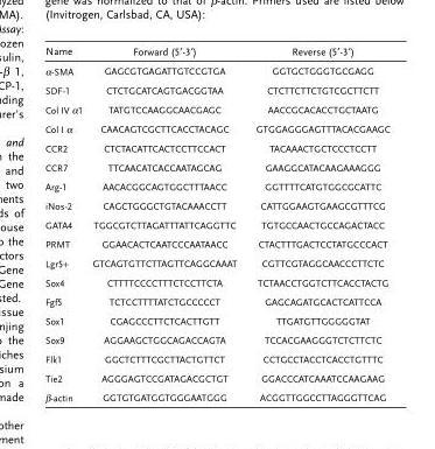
<table><thead><tr><td>Name</td><td>Forward (5′-3′)</td><td>Reverse (5′-3′)</td></tr></thead><tbody><tr><td>α-SMA</td><td>GAGCGTGAGATTGTCCGTGA</td><td>GGTGCTGGGTGCGAGG</td></tr><tr><td>SDF-1</td><td>CTCTGCATCAGTGACGGTAA</td><td>CTCTTCTTCTGTCGCTTCTT</td></tr><tr><td>Col IV α1</td><td>TATGTCCAAGGCAACGAGC</td><td>AACCGCACACCTGCTAATG</td></tr><tr><td>Col I α</td><td>CAACAGTCGCTTCACCTACAGC</td><td>GTGGAGGGAGTTTACACGAAGC</td></tr><tr><td>CCR2</td><td>CTCTACATTCACTCCTTCCACT</td><td>TACAAACTGCTCCCTCCTT</td></tr><tr><td>CCR7</td><td>TTCAACATCACCAATAGCAG</td><td>GAAGGCATACAAGAAAGGG</td></tr><tr><td>Arg-1</td><td>AACACGGCAGTGGCTTTAACC</td><td>GGTTTTCATGTGGCGCATTC</td></tr><tr><td>iNos-2</td><td>CAGCTGGGCTGTACAAACCTT</td><td>CATTGGAAGTGAAGCGTTTCG</td></tr><tr><td>GATA4</td><td>TGGCGTCTTAGATTTATTCAGGTTC</td><td>TGTGCCAACTGCCAGACTACC</td></tr><tr><td>PRMT</td><td>GGAACACTCAATCCCAATAACC</td><td>CTACTTTGACTCCTATGCCCACT</td></tr><tr><td>Lgr5+</td><td>GTCAGTGTTCTTAGTTCAGGCAAAT</td><td>CGTTCGTAGGCAACCCTTCTC</td></tr><tr><td>Sox4</td><td>CTTTTCCCCTTTCTCCTTCTA</td><td>TCTAACCTGGTCTTCACCTACTG</td></tr><tr><td>Fgf5</td><td>TCTCCTTTTATCTGCCCCCT</td><td>GAGCAGATGCACTCATTCCA</td></tr><tr><td>Sox1</td><td>CGAGCCCTTCTCACTTGTT</td><td>TTGATGTTGGGGGTAT</td></tr><tr><td>Sox9</td><td>AGGAAGCTGGCAGACCAGTA</td><td>TCCACGAAGGGTCTCTTCTC</td></tr><tr><td>Flk1</td><td>GGCTCTTTCGCTTACTGTTCT</td><td>CCTGCCTACCTCACCTGTTTC</td></tr><tr><td>Tie2</td><td>AGGGAGTCCGATAGACGCTGT</td><td>GGACCCATCAAATCCAAGAAG</td></tr><tr><td>β-actin</td><td>GGTGTGATGGTGGGAATGGG</td><td>ACGGTTGGCCTTAGGGTTCAG</td></tr></tbody></table>